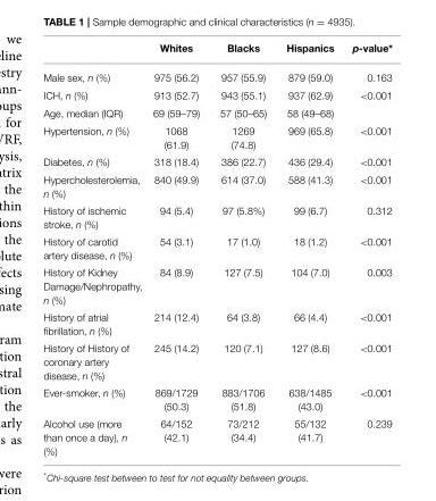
<table><thead><tr><td></td><td>Whites</td><td>Blacks</td><td>Hispanics</td><td>p-value*</td></tr></thead><tbody><tr><td>Male sex, n (%)</td><td>975 (56.2)</td><td>957 (55.9)</td><td>879 (59.0)</td><td>0.163</td></tr><tr><td>ICH, n (%)</td><td>913 (52.7)</td><td>943 (55.1)</td><td>937 (62.9)</td><td>&lt;0.001</td></tr><tr><td>Age, median (IQR)</td><td>69 (59–79)</td><td>57 (50–65)</td><td>58 (49–68)</td><td></td></tr><tr><td>Hypertension, n (%)</td><td>1068 (61.9)</td><td>1269 (74.8)</td><td>969 (65.8)</td><td>&lt;0.001</td></tr><tr><td>Diabetes, n (%)</td><td>318 (18.4)</td><td>386 (22.7)</td><td>436 (29.4)</td><td>&lt;0.001</td></tr><tr><td>Hypercholesterolemia, n (%)</td><td>840 (49.9)</td><td>614 (37.0)</td><td>588 (41.3)</td><td>&lt;0.001</td></tr><tr><td>History of ischemic stroke, n (%)</td><td>94 (5.4)</td><td>97 (5.8%)</td><td>99 (6.7)</td><td>0.312</td></tr><tr><td>History of carotid artery disease, n (%)</td><td>54 (3.1)</td><td>17 (1.0)</td><td>18 (1.2)</td><td>&lt;0.001</td></tr><tr><td>History of Kidney Damage/Nephropathy, n (%)</td><td>84 (8.9)</td><td>127 (7.5)</td><td>104 (7.0)</td><td>0.003</td></tr><tr><td>History of atrial fibrillation, n (%)</td><td>214 (12.4)</td><td>64 (3.8)</td><td>66 (4.4)</td><td>&lt;0.001</td></tr><tr><td>History of History of coronary artery disease, n (%)</td><td>245 (14.2)</td><td>120 (7.1)</td><td>127 (8.6)</td><td>&lt;0.001</td></tr><tr><td>Ever-smoker, n (%)</td><td>869/1729 (50.3)</td><td>883/1706 (51.8)</td><td>638/1485 (43.0)</td><td>&lt;0.001</td></tr><tr><td>Alcohol use (more than once a day), n (%)</td><td>64/152 (42.1)</td><td>73/212 (34.4)</td><td>55/132 (41.7)</td><td>0.239</td></tr></tbody></table>